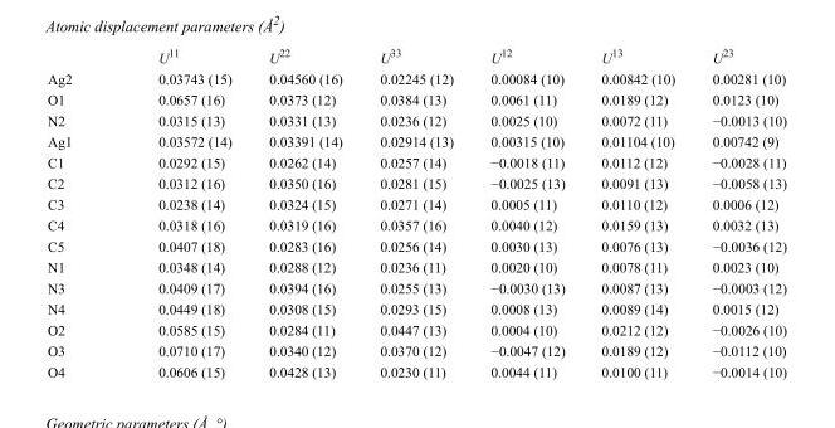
<table><thead><tr><td></td><td>U<sup>11</sup></td><td>U<sup>22</sup></td><td>U<sup>33</sup></td><td>U<sup>12</sup></td><td>U<sup>13</sup></td><td>U<sup>23</sup></td></tr></thead><tbody><tr><td>Ag2</td><td>0.03743 (15)</td><td>0.04560 (16)</td><td>0.02245 (12)</td><td>0.00084 (10)</td><td>0.00842 (10)</td><td>0.00281 (10)</td></tr><tr><td>O1</td><td>0.0657 (16)</td><td>0.0373 (12)</td><td>0.0384 (13)</td><td>0.0061 (11)</td><td>0.0189 (12)</td><td>0.0123 (10)</td></tr><tr><td>N2</td><td>0.0315 (13)</td><td>0.0331 (13)</td><td>0.0236 (12)</td><td>0.0025 (10)</td><td>0.0072 (11)</td><td>−0.0013 (10)</td></tr><tr><td>Ag1</td><td>0.03572 (14)</td><td>0.03391 (14)</td><td>0.02914 (13)</td><td>0.00315 (10)</td><td>0.01104 (10)</td><td>0.00742 (9)</td></tr><tr><td>C1</td><td>0.0292 (15)</td><td>0.0262 (14)</td><td>0.0257 (14)</td><td>−0.0018 (11)</td><td>0.0112 (12)</td><td>−0.0028 (11)</td></tr><tr><td>C2</td><td>0.0312 (16)</td><td>0.0350 (16)</td><td>0.0281 (15)</td><td>−0.0025 (13)</td><td>0.0091 (13)</td><td>−0.0058 (13)</td></tr><tr><td>C3</td><td>0.0238 (14)</td><td>0.0324 (15)</td><td>0.0271 (14)</td><td>0.0005 (11)</td><td>0.0110 (12)</td><td>0.0006 (12)</td></tr><tr><td>C4</td><td>0.0318 (16)</td><td>0.0319 (16)</td><td>0.0357 (16)</td><td>0.0040 (12)</td><td>0.0159 (13)</td><td>0.0032 (13)</td></tr><tr><td>C5</td><td>0.0407 (18)</td><td>0.0283 (16)</td><td>0.0256 (14)</td><td>0.0030 (13)</td><td>0.0076 (13)</td><td>−0.0036 (12)</td></tr><tr><td>N1</td><td>0.0348 (14)</td><td>0.0288 (12)</td><td>0.0236 (11)</td><td>0.0020 (10)</td><td>0.0078 (11)</td><td>0.0023 (10)</td></tr><tr><td>N3</td><td>0.0409 (17)</td><td>0.0394 (16)</td><td>0.0255 (13)</td><td>−0.0030 (13)</td><td>0.0087 (13)</td><td>−0.0003 (12)</td></tr><tr><td>N4</td><td>0.0449 (18)</td><td>0.0308 (15)</td><td>0.0293 (15)</td><td>0.0008 (13)</td><td>0.0089 (14)</td><td>0.0015 (12)</td></tr><tr><td>O2</td><td>0.0585 (15)</td><td>0.0284 (11)</td><td>0.0447 (13)</td><td>0.0004 (10)</td><td>0.0212 (12)</td><td>−0.0026 (10)</td></tr><tr><td>O3</td><td>0.0710 (17)</td><td>0.0340 (12)</td><td>0.0370 (12)</td><td>−0.0047 (12)</td><td>0.0189 (12)</td><td>−0.0112 (10)</td></tr><tr><td>O4</td><td>0.0606 (15)</td><td>0.0428 (13)</td><td>0.0230 (11)</td><td>0.0044 (11)</td><td>0.0100 (11)</td><td>−0.0014 (10)</td></tr></tbody></table>